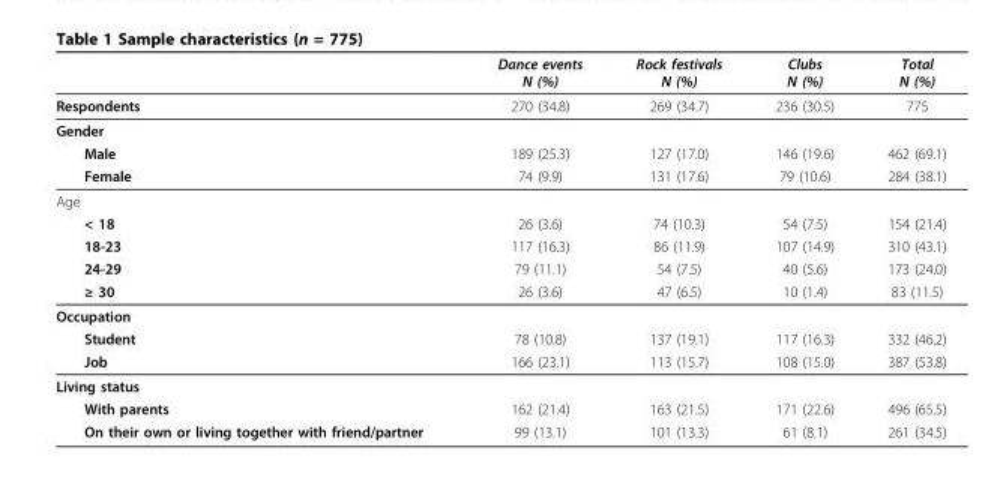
<table><thead><tr><td></td><td>Dance events N (%)</td><td>Rock festivals N (%)</td><td>Clubs N (%)</td><td>Total N (%)</td></tr></thead><tbody><tr><td>Respondents</td><td>270 (34.8)</td><td>269 (34.7)</td><td>236 (30.5)</td><td>775</td></tr><tr><td colspan="5">Gender</td></tr><tr><td>Male</td><td>189 (25.3)</td><td>127 (17.0)</td><td>146 (19.6)</td><td>462 (69.1)</td></tr><tr><td>Female</td><td>74 (9.9)</td><td>131 (17.6)</td><td>79 (10.6)</td><td>284 (38.1)</td></tr><tr><td colspan="5">Age</td></tr><tr><td>&lt; 18</td><td>26 (3.6)</td><td>74 (10.3)</td><td>54 (7.5)</td><td>154 (21.4)</td></tr><tr><td>18-23</td><td>117 (16.3)</td><td>86 (11.9)</td><td>107 (14.9)</td><td>310 (43.1)</td></tr><tr><td>24-29</td><td>79 (11.1)</td><td>54 (7.5)</td><td>40 (5.6)</td><td>173 (24.0)</td></tr><tr><td>≥ 30</td><td>26 (3.6)</td><td>47 (6.5)</td><td>10 (1.4)</td><td>83 (11.5)</td></tr><tr><td colspan="5">Occupation</td></tr><tr><td>Student</td><td>78 (10.8)</td><td>137 (19.1)</td><td>117 (16.3)</td><td>332 (46.2)</td></tr><tr><td>Job</td><td>166 (23.1)</td><td>113 (15.7)</td><td>108 (15.0)</td><td>387 (53.8)</td></tr><tr><td colspan="5">Living status</td></tr><tr><td>With parents</td><td>162 (21.4)</td><td>163 (21.5)</td><td>171 (22.6)</td><td>496 (65.5)</td></tr><tr><td>On their own or living together with friend/partner</td><td>99 (13.1)</td><td>101 (13.3)</td><td>61 (8.1)</td><td>261 (34.5)</td></tr></tbody></table>